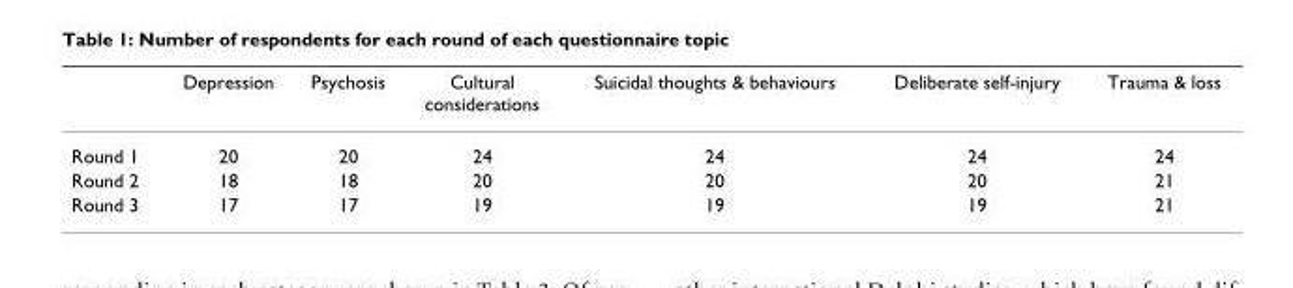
<table><thead><tr><td></td><td>Depression</td><td>Psychosis</td><td>Cultural considerations</td><td>Suicidal thoughts &amp; behaviours</td><td>Deliberate self-injury</td><td>Trauma &amp; loss</td></tr></thead><tbody><tr><td>Round 1</td><td>20</td><td>20</td><td>24</td><td>24</td><td>24</td><td>24</td></tr><tr><td>Round 2</td><td>18</td><td>18</td><td>20</td><td>20</td><td>20</td><td>21</td></tr><tr><td>Round 3</td><td>17</td><td>17</td><td>19</td><td>19</td><td>19</td><td>21</td></tr></tbody></table>